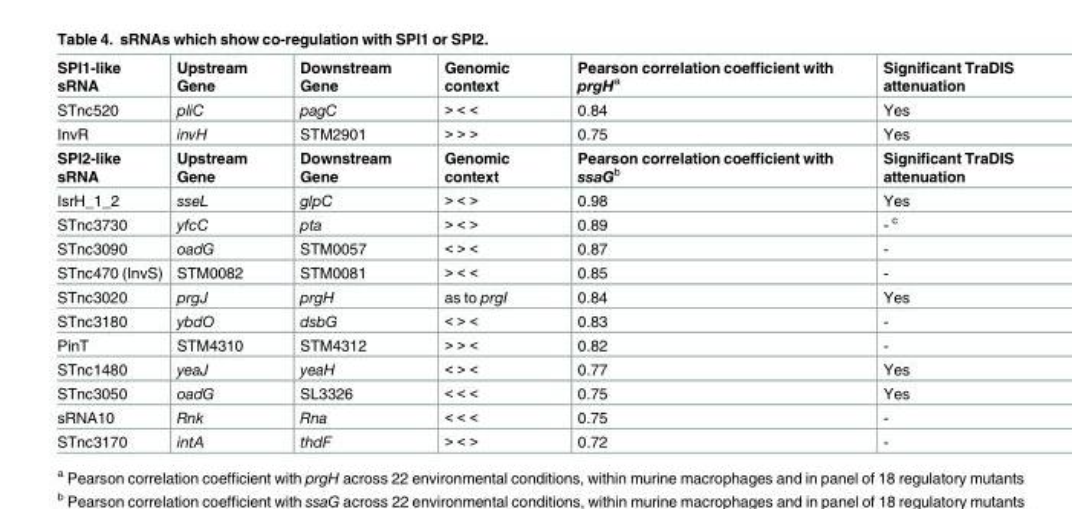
<table><tbody><tr><td>SPI1-like sRNA</td><td>Upstream Gene</td><td>Downstream Gene</td><td>Genomic context</td><td>Pearson correlation coefficient with prgH<sup>a</sup></td><td>Significant TraDIS attenuation</td></tr><tr><td>STnc520</td><td>pliC</td><td>pagC</td><td>&gt; &lt; &lt;</td><td>0.84</td><td>Yes</td></tr><tr><td>InvR</td><td>invH</td><td>STM2901</td><td>&gt; &gt; &gt;</td><td>0.75</td><td>Yes</td></tr><tr><td>SPI2-like sRNA</td><td>Upstream Gene</td><td>Downstream Gene</td><td>Genomic context</td><td>Pearson correlation coefficient with ssaG<sup>b</sup></td><td>Significant TraDIS attenuation</td></tr><tr><td>IsrH_1_2</td><td>sseL</td><td>glpC</td><td>&gt; &lt; &gt;</td><td>0.98</td><td>Yes</td></tr><tr><td>STnc3730</td><td>yfcC</td><td>pta</td><td>&gt; &lt; &gt;</td><td>0.89</td><td>- <sup>c</sup></td></tr><tr><td>STnc3090</td><td>oadG</td><td>STM0057</td><td>&lt; &gt; &lt;</td><td>0.87</td><td>-</td></tr><tr><td>STnc470 (InvS)</td><td>STM0082</td><td>STM0081</td><td>&gt; &lt; &lt;</td><td>0.85</td><td>-</td></tr><tr><td>STnc3020</td><td>prgJ</td><td>prgH</td><td>as to prgI</td><td>0.84</td><td>Yes</td></tr><tr><td>STnc3180</td><td>ybdO</td><td>dsbG</td><td>&lt; &gt; &lt;</td><td>0.83</td><td>-</td></tr><tr><td>PinT</td><td>STM4310</td><td>STM4312</td><td>&gt; &gt; &lt;</td><td>0.82</td><td>-</td></tr><tr><td>STnc1480</td><td>yeaJ</td><td>yeaH</td><td>&lt; &gt; &lt;</td><td>0.77</td><td>Yes</td></tr><tr><td>STnc3050</td><td>oadG</td><td>SL3326</td><td>&lt; &lt; &lt;</td><td>0.75</td><td>Yes</td></tr><tr><td>sRNA10</td><td>Rnk</td><td>Rna</td><td>&lt; &lt; &lt;</td><td>0.75</td><td>-</td></tr><tr><td>STnc3170</td><td>intA</td><td>thdF</td><td>&gt; &lt; &gt;</td><td>0.72</td><td>-</td></tr></tbody></table>